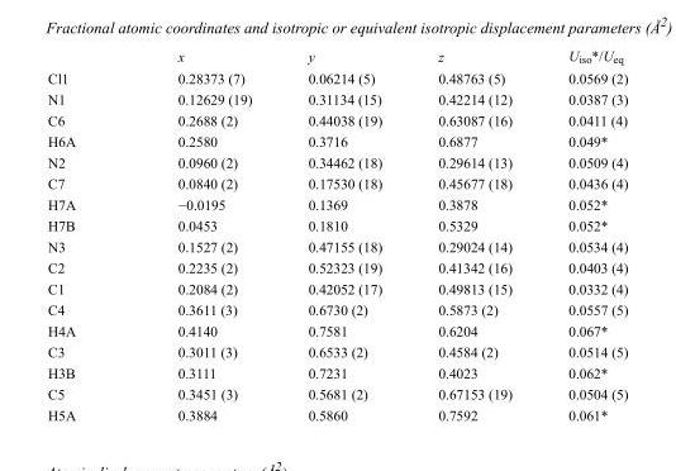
<table><thead><tr><td></td><td>x</td><td>y</td><td>z</td><td>U<sub>iso</sub>*/U<sub>eq</sub></td></tr></thead><tbody><tr><td>Cl1</td><td>0.28373 (7)</td><td>0.06214 (5)</td><td>0.48763 (5)</td><td>0.0569 (2)</td></tr><tr><td>N1</td><td>0.12629 (19)</td><td>0.31134 (15)</td><td>0.42214 (12)</td><td>0.0387 (3)</td></tr><tr><td>C6</td><td>0.2688 (2)</td><td>0.44038 (19)</td><td>0.63087 (16)</td><td>0.0411 (4)</td></tr><tr><td>H6A</td><td>0.2580</td><td>0.3716</td><td>0.6877</td><td>0.049*</td></tr><tr><td>N2</td><td>0.0960 (2)</td><td>0.34462 (18)</td><td>0.29614 (13)</td><td>0.0509 (4)</td></tr><tr><td>C7</td><td>0.0840 (2)</td><td>0.17530 (18)</td><td>0.45677 (18)</td><td>0.0436 (4)</td></tr><tr><td>H7A</td><td>−0.0195</td><td>0.1369</td><td>0.3878</td><td>0.052*</td></tr><tr><td>H7B</td><td>0.0453</td><td>0.1810</td><td>0.5329</td><td>0.052*</td></tr><tr><td>N3</td><td>0.1527 (2)</td><td>0.47155 (18)</td><td>0.29024 (14)</td><td>0.0534 (4)</td></tr><tr><td>C2</td><td>0.2235 (2)</td><td>0.52323 (19)</td><td>0.41342 (16)</td><td>0.0403 (4)</td></tr><tr><td>C1</td><td>0.2084 (2)</td><td>0.42052 (17)</td><td>0.49813 (15)</td><td>0.0332 (4)</td></tr><tr><td>C4</td><td>0.3611 (3)</td><td>0.6730 (2)</td><td>0.5873 (2)</td><td>0.0557 (5)</td></tr><tr><td>H4A</td><td>0.4140</td><td>0.7581</td><td>0.6204</td><td>0.067*</td></tr><tr><td>C3</td><td>0.3011 (3)</td><td>0.6533 (2)</td><td>0.4584 (2)</td><td>0.0514 (5)</td></tr><tr><td>H3B</td><td>0.3111</td><td>0.7231</td><td>0.4023</td><td>0.062*</td></tr><tr><td>C5</td><td>0.3451 (3)</td><td>0.5681 (2)</td><td>0.67153 (19)</td><td>0.0504 (5)</td></tr><tr><td>H5A</td><td>0.3884</td><td>0.5860</td><td>0.7592</td><td>0.061*</td></tr></tbody></table>